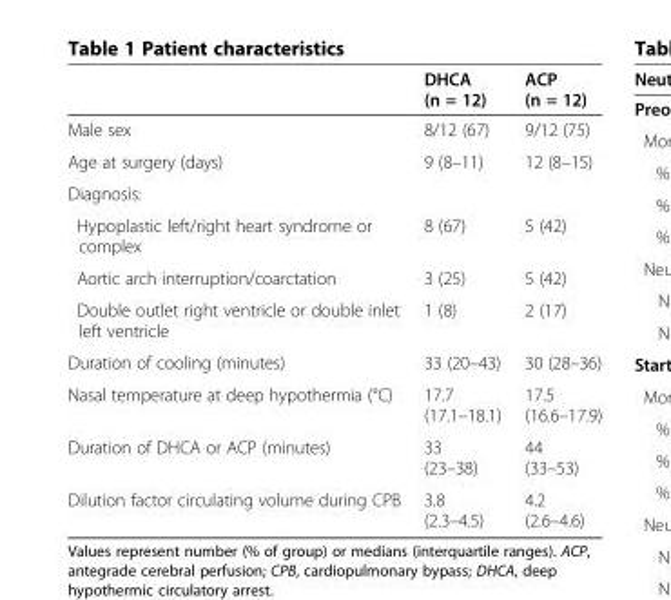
<table><thead><tr><td></td><td>DHCA (n = 12)</td><td>ACP (n = 12)</td></tr></thead><tbody><tr><td>Male sex</td><td>8/12 (67)</td><td>9/12 (75)</td></tr><tr><td>Age at surgery (days)</td><td>9 (8–11)</td><td>12 (8–15)</td></tr><tr><td colspan="3">Diagnosis:</td></tr><tr><td>Hypoplastic left/right heart syndrome or complex</td><td>8 (67)</td><td>5 (42)</td></tr><tr><td>Aortic arch interruption/coarctation</td><td>3 (25)</td><td>5 (42)</td></tr><tr><td>Double outlet right ventricle or double inlet left ventricle</td><td>1 (8)</td><td>2 (17)</td></tr><tr><td>Duration of cooling (minutes)</td><td>33 (20–43)</td><td>30 (28–36)</td></tr><tr><td>Nasal temperature at deep hypothermia (°C)</td><td>17.7 (17.1–18.1)</td><td>17.5 (16.6–17.9)</td></tr><tr><td>Duration of DHCA or ACP (minutes)</td><td>33 (23–38)</td><td>44 (33–53)</td></tr><tr><td>Dilution factor circulating volume during CPB</td><td>3.8 (2.3–4.5)</td><td>4.2 (2.6–4.6)</td></tr></tbody></table>